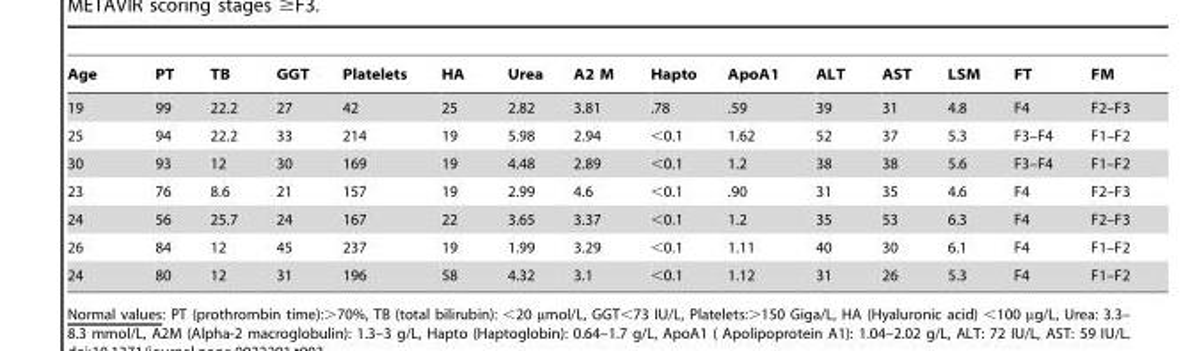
<table><thead><tr><td>Age</td><td>PT</td><td>TB</td><td>GGT</td><td>Platelets</td><td>HA</td><td>Urea</td><td>A2 M</td><td>Hapto</td><td>ApoA1</td><td>ALT</td><td>AST</td><td>LSM</td><td>FT</td><td>FM</td></tr></thead><tbody><tr><td>19</td><td>99</td><td>22.2</td><td>27</td><td>42</td><td>25</td><td>2.82</td><td>3.81</td><td>.78</td><td>.59</td><td>39</td><td>31</td><td>4.8</td><td>F4</td><td>F2–F3</td></tr><tr><td>25</td><td>94</td><td>22.2</td><td>33</td><td>214</td><td>19</td><td>5.98</td><td>2.94</td><td>&lt;0.1</td><td>1.62</td><td>52</td><td>37</td><td>5.3</td><td>F3–F4</td><td>F1–F2</td></tr><tr><td>30</td><td>93</td><td>12</td><td>30</td><td>169</td><td>19</td><td>4.48</td><td>2.89</td><td>&lt;0.1</td><td>1.2</td><td>38</td><td>38</td><td>5.6</td><td>F3–F4</td><td>F1–F2</td></tr><tr><td>23</td><td>76</td><td>8.6</td><td>21</td><td>157</td><td>19</td><td>2.99</td><td>4.6</td><td>&lt;0.1</td><td>.90</td><td>31</td><td>35</td><td>4.6</td><td>F4</td><td>F2–F3</td></tr><tr><td>24</td><td>56</td><td>25.7</td><td>24</td><td>167</td><td>22</td><td>3.65</td><td>3.37</td><td>&lt;0.1</td><td>1.2</td><td>35</td><td>53</td><td>6.3</td><td>F4</td><td>F2–F3</td></tr><tr><td>26</td><td>84</td><td>12</td><td>45</td><td>237</td><td>19</td><td>1.99</td><td>3.29</td><td>&lt;0.1</td><td>1.11</td><td>40</td><td>30</td><td>6.1</td><td>F4</td><td>F1–F2</td></tr><tr><td>24</td><td>80</td><td>12</td><td>31</td><td>196</td><td>58</td><td>4.32</td><td>3.1</td><td>&lt;0.1</td><td>1.12</td><td>31</td><td>26</td><td>5.3</td><td>F4</td><td>F1–F2</td></tr></tbody></table>